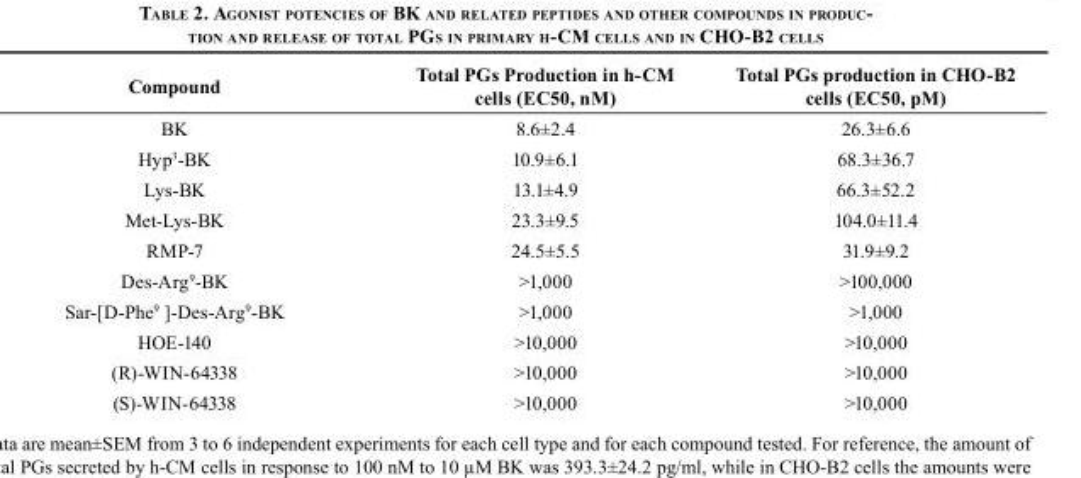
<table><thead><tr><td>Compound</td><td>Total PGs Production in h-CM cells (EC<sub>50</sub>, nM)</td><td>Total PGs production in CHO-B2 cells (EC<sub>50</sub>, pM)</td></tr></thead><tbody><tr><td>BK</td><td>8.6±2.4</td><td>26.3±6.6</td></tr><tr><td>Hyp<sup>3</sup>-BK</td><td>10.9±6.1</td><td>68.3±36.7</td></tr><tr><td>Lys-BK</td><td>13.1±4.9</td><td>66.3±52.2</td></tr><tr><td>Met-Lys-BK</td><td>23.3±9.5</td><td>104.0±11.4</td></tr><tr><td>RMP-7</td><td>24.5±5.5</td><td>31.9±9.2</td></tr><tr><td>Des-Arg<sup>9</sup>-BK</td><td>&gt;1,000</td><td>&gt;100,000</td></tr><tr><td>Sar-[D-Phe<sup>9</sup> ]-Des-Arg<sup>9</sup>-BK</td><td>&gt;1,000</td><td>&gt;1,000</td></tr><tr><td>HOE-140</td><td>&gt;10,000</td><td>&gt;10,000</td></tr><tr><td>(R)-WIN-64338</td><td>&gt;10,000</td><td>&gt;10,000</td></tr><tr><td>(S)-WIN-64338</td><td>&gt;10,000</td><td>&gt;10,000</td></tr></tbody></table>